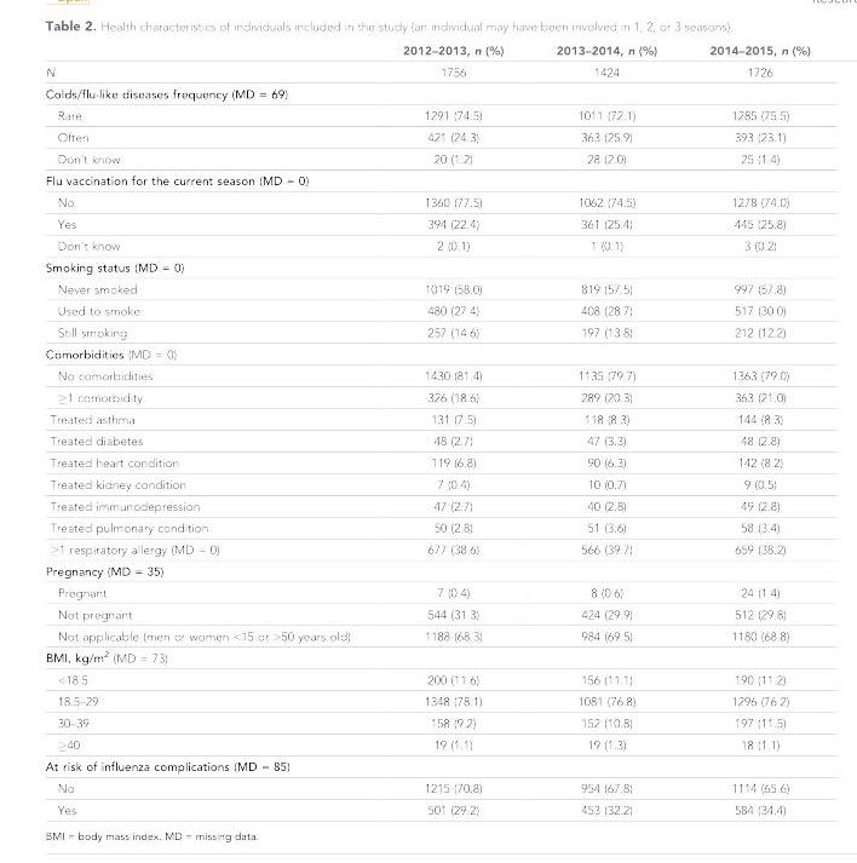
<table><thead><tr><td></td><td>2012–2013, n (%)</td><td>2013–2014, n (%)</td><td>2014–2015, n (%)</td></tr></thead><tbody><tr><td>N</td><td>1756</td><td>1424</td><td>1726</td></tr><tr><td colspan="4">Colds/flu-like diseases frequency (MD = 69)</td></tr><tr><td>Rare</td><td>1291 (74.5)</td><td>1011 (72.1)</td><td>1285 (75.5)</td></tr><tr><td>Often</td><td>421 (24.3)</td><td>363 (25.9)</td><td>393 (23.1)</td></tr><tr><td>Don’t know</td><td>20 (1.2)</td><td>28 (2.0)</td><td>25 (1.4)</td></tr><tr><td colspan="4">Flu vaccination for the current season (MD = 0)</td></tr><tr><td>No</td><td>1360 (77.5)</td><td>1062 (74.5)</td><td>1278 (74.0)</td></tr><tr><td>Yes</td><td>394 (22.4)</td><td>361 (25.4)</td><td>445 (25.8)</td></tr><tr><td>Don’t know</td><td>2 (0.1)</td><td>1 (0.1)</td><td>3 (0.2)</td></tr><tr><td colspan="4">Smoking status (MD = 0)</td></tr><tr><td>Never smoked</td><td>1019 (58.0)</td><td>819 (57.5)</td><td>997 (57.8)</td></tr><tr><td>Used to smoke</td><td>480 (27.4)</td><td>408 (28.7)</td><td>517 (30.0)</td></tr><tr><td>Still smoking</td><td>257 (14.6)</td><td>197 (13.8)</td><td>212 (12.2)</td></tr><tr><td colspan="4">Comorbidities (MD = 0)</td></tr><tr><td>No comorbidities</td><td>1430 (81.4)</td><td>1135 (79.7)</td><td>1363 (79.0)</td></tr><tr><td>≥1 comorbidity</td><td>326 (18.6)</td><td>289 (20.3)</td><td>363 (21.0)</td></tr><tr><td>Treated asthma</td><td>131 (7.5)</td><td>118 (8.3)</td><td>144 (8.3)</td></tr><tr><td>Treated diabetes</td><td>48 (2.7)</td><td>47 (3.3)</td><td>48 (2.8)</td></tr><tr><td>Treated heart condition</td><td>119 (6.8)</td><td>90 (6.3)</td><td>142 (8.2)</td></tr><tr><td>Treated kidney condition</td><td>7 (0.4)</td><td>10 (0.7)</td><td>9 (0.5)</td></tr><tr><td>Treated immunodepression</td><td>47 (2.7)</td><td>40 (2.8)</td><td>49 (2.8)</td></tr><tr><td>Treated pulmonary condition</td><td>50 (2.8)</td><td>51 (3.6)</td><td>58 (3.4)</td></tr><tr><td>≥1 respiratory allergy (MD = 0)</td><td>677 (38.6)</td><td>566 (39.7)</td><td>659 (38.2)</td></tr><tr><td colspan="4">Pregnancy (MD = 35)</td></tr><tr><td>Pregnant</td><td>7 (0.4)</td><td>8 (0.6)</td><td>24 (1.4)</td></tr><tr><td>Not pregnant</td><td>544 (31.3)</td><td>424 (29.9)</td><td>512 (29.8)</td></tr><tr><td>Not applicable (men or women &lt;15 or &gt;50 years old)</td><td>1188 (68.3)</td><td>984 (69.5)</td><td>1180 (68.8)</td></tr><tr><td colspan="4">BMI, kg/m<sup>2</sup> (MD = 73)</td></tr><tr><td>&lt;18.5</td><td>200 (11.6)</td><td>156 (11.1)</td><td>190 (11.2)</td></tr><tr><td>18.5–29</td><td>1348 (78.1)</td><td>1081 (76.8)</td><td>1296 (76.2)</td></tr><tr><td>30–39</td><td>158 (9.2)</td><td>152 (10.8)</td><td>197 (11.5)</td></tr><tr><td>≥40</td><td>19 (1.1)</td><td>19 (1.3)</td><td>18 (1.1)</td></tr><tr><td colspan="4">At risk of influenza complications (MD = 85)</td></tr><tr><td>No</td><td>1215 (70.8)</td><td>954 (67.8)</td><td>1114 (65.6)</td></tr><tr><td>Yes</td><td>501 (29.2)</td><td>453 (32.2)</td><td>584 (34.4)</td></tr></tbody></table>